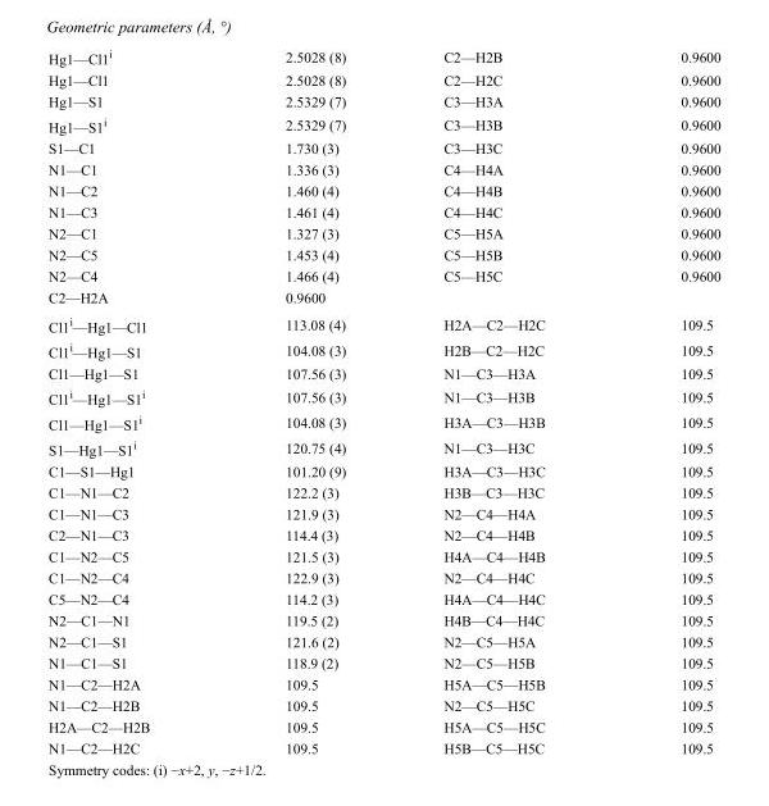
<table><tbody><tr><td>Hg1—Cl1<sup>i</sup></td><td>2.5028 (8)</td><td>C2—H2B</td><td>0.9600</td></tr><tr><td>Hg1—Cl1</td><td>2.5028 (8)</td><td>C2—H2C</td><td>0.9600</td></tr><tr><td>Hg1—S1</td><td>2.5329 (7)</td><td>C3—H3A</td><td>0.9600</td></tr><tr><td>Hg1—S1<sup>i</sup></td><td>2.5329 (7)</td><td>C3—H3B</td><td>0.9600</td></tr><tr><td>S1—C1</td><td>1.730 (3)</td><td>C3—H3C</td><td>0.9600</td></tr><tr><td>N1—C1</td><td>1.336 (3)</td><td>C4—H4A</td><td>0.9600</td></tr><tr><td>N1—C2</td><td>1.460 (4)</td><td>C4—H4B</td><td>0.9600</td></tr><tr><td>N1—C3</td><td>1.461 (4)</td><td>C4—H4C</td><td>0.9600</td></tr><tr><td>N2—C1</td><td>1.327 (3)</td><td>C5—H5A</td><td>0.9600</td></tr><tr><td>N2—C5</td><td>1.453 (4)</td><td>C5—H5B</td><td>0.9600</td></tr><tr><td>N2—C4</td><td>1.466 (4)</td><td>C5—H5C</td><td>0.9600</td></tr><tr><td>C2—H2A</td><td>0.9600</td><td></td><td></td></tr><tr><td>Cl1<sup>i</sup>—Hg1—Cl1</td><td>113.08 (4)</td><td>H2A—C2—H2C</td><td>109.5</td></tr><tr><td>Cl1<sup>i</sup>—Hg1—S1</td><td>104.08 (3)</td><td>H2B—C2—H2C</td><td>109.5</td></tr><tr><td>Cl1—Hg1—S1</td><td>107.56 (3)</td><td>N1—C3—H3A</td><td>109.5</td></tr><tr><td>Cl1<sup>i</sup>—Hg1—S1<sup>i</sup></td><td>107.56 (3)</td><td>N1—C3—H3B</td><td>109.5</td></tr><tr><td>Cl1—Hg1—S1<sup>i</sup></td><td>104.08 (3)</td><td>H3A—C3—H3B</td><td>109.5</td></tr><tr><td>S1—Hg1—S1<sup>i</sup></td><td>120.75 (4)</td><td>N1—C3—H3C</td><td>109.5</td></tr><tr><td>C1—S1—Hg1</td><td>101.20 (9)</td><td>H3A—C3—H3C</td><td>109.5</td></tr><tr><td>C1—N1—C2</td><td>122.2 (3)</td><td>H3B—C3—H3C</td><td>109.5</td></tr><tr><td>C1—N1—C3</td><td>121.9 (3)</td><td>N2—C4—H4A</td><td>109.5</td></tr><tr><td>C2—N1—C3</td><td>114.4 (3)</td><td>N2—C4—H4B</td><td>109.5</td></tr><tr><td>C1—N2—C5</td><td>121.5 (3)</td><td>H4A—C4—H4B</td><td>109.5</td></tr><tr><td>C1—N2—C4</td><td>122.9 (3)</td><td>N2—C4—H4C</td><td>109.5</td></tr><tr><td>C5—N2—C4</td><td>114.2 (3)</td><td>H4A—C4—H4C</td><td>109.5</td></tr><tr><td>N2—C1—N1</td><td>119.5 (2)</td><td>H4B—C4—H4C</td><td>109.5</td></tr><tr><td>N2—C1—S1</td><td>121.6 (2)</td><td>N2—C5—H5A</td><td>109.5</td></tr><tr><td>N1—C1—S1</td><td>118.9 (2)</td><td>N2—C5—H5B</td><td>109.5</td></tr><tr><td>N1—C2—H2A</td><td>109.5</td><td>H5A—C5—H5B</td><td>109.5</td></tr><tr><td>N1—C2—H2B</td><td>109.5</td><td>N2—C5—H5C</td><td>109.5</td></tr><tr><td>H2A—C2—H2B</td><td>109.5</td><td>H5A—C5—H5C</td><td>109.5</td></tr><tr><td>N1—C2—H2C</td><td>109.5</td><td>H5B—C5—H5C</td><td>109.5</td></tr></tbody></table>